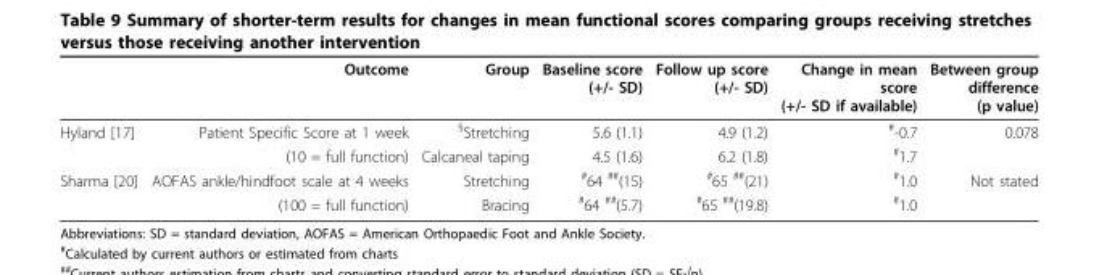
<table><thead><tr><td></td><td>Outcome</td><td>Group</td><td>Baseline score (+/- SD)</td><td>Follow up score (+/- SD)</td><td>Change in mean score (+/- SD if available)</td><td>Between group difference (p value)</td></tr></thead><tbody><tr><td rowspan="2">Hyland [17]</td><td>Patient Specific Score at 1 week</td><td><sup>§</sup>Stretching</td><td>5.6 (1.1)</td><td>4.9 (1.2)</td><td><sup>#</sup>-0.7</td><td>0.078</td></tr><tr><td>(10 = full function)</td><td>Calcaneal taping</td><td>4.5 (1.6)</td><td>6.2 (1.8)</td><td><sup>#</sup>1.7</td><td></td></tr><tr><td rowspan="2">Sharma [20]</td><td>AOFAS ankle/hindfoot scale at 4 weeks</td><td>Stretching</td><td><sup>#</sup>64 <sup>##</sup>(15)</td><td><sup>#</sup>65 <sup>##</sup>(21)</td><td><sup>#</sup>1.0</td><td>Not stated</td></tr><tr><td>(100 = full function)</td><td>Bracing</td><td><sup>#</sup>64 <sup>##</sup>(5.7)</td><td><sup>#</sup>65 <sup>##</sup>(19.8)</td><td><sup>#</sup>1.0</td><td></td></tr></tbody></table>